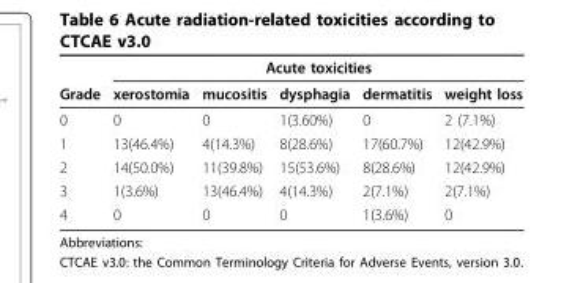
<table><thead><tr><td rowspan="2">Grade</td><td colspan="5">Acute toxicities</td></tr><tr><td>xerostomia</td><td>mucositis</td><td>dysphagia</td><td>dermatitis</td><td>weight loss</td></tr></thead><tbody><tr><td>0</td><td>0</td><td>0</td><td>1(3.60%)</td><td>0</td><td>2 (7.1%)</td></tr><tr><td>1</td><td>13(46.4%)</td><td>4(14.3%)</td><td>8(28.6%)</td><td>17(60.7%)</td><td>12(42.9%)</td></tr><tr><td>2</td><td>14(50.0%)</td><td>11(39.8%)</td><td>15(53.6%)</td><td>8(28.6%)</td><td>12(42.9%)</td></tr><tr><td>3</td><td>1(3.6%)</td><td>13(46.4%)</td><td>4(14.3%)</td><td>2(7.1%)</td><td>2(7.1%)</td></tr><tr><td>4</td><td>0</td><td>0</td><td>0</td><td>1(3.6%)</td><td>0</td></tr></tbody></table>